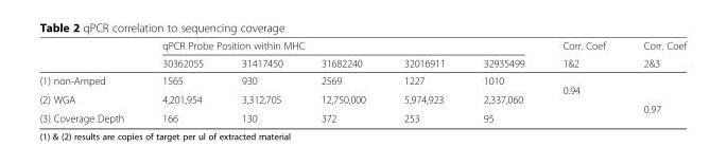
<table><thead><tr><td rowspan="2"></td><td colspan="5">qPCR Probe Position within MHC</td><td rowspan="2">Corr. Coef 1&amp;2</td><td rowspan="2">Corr. Coef 2&amp;3</td></tr><tr><td>30362055</td><td>31417450</td><td>31682240</td><td>32016911</td><td>32935499</td></tr></thead><tbody><tr><td>(1) non-Amped</td><td>1565</td><td>930</td><td>2569</td><td>1227</td><td>1010</td><td rowspan="2">0.94</td><td></td></tr><tr><td>(2) WGA</td><td>4,201,954</td><td>3,312,705</td><td>12,750,000</td><td>5,974,923</td><td>2,337,060</td><td rowspan="2">0.97</td></tr><tr><td>(3) Coverage Depth</td><td>166</td><td>130</td><td>372</td><td>253</td><td>95</td><td></td></tr></tbody></table>